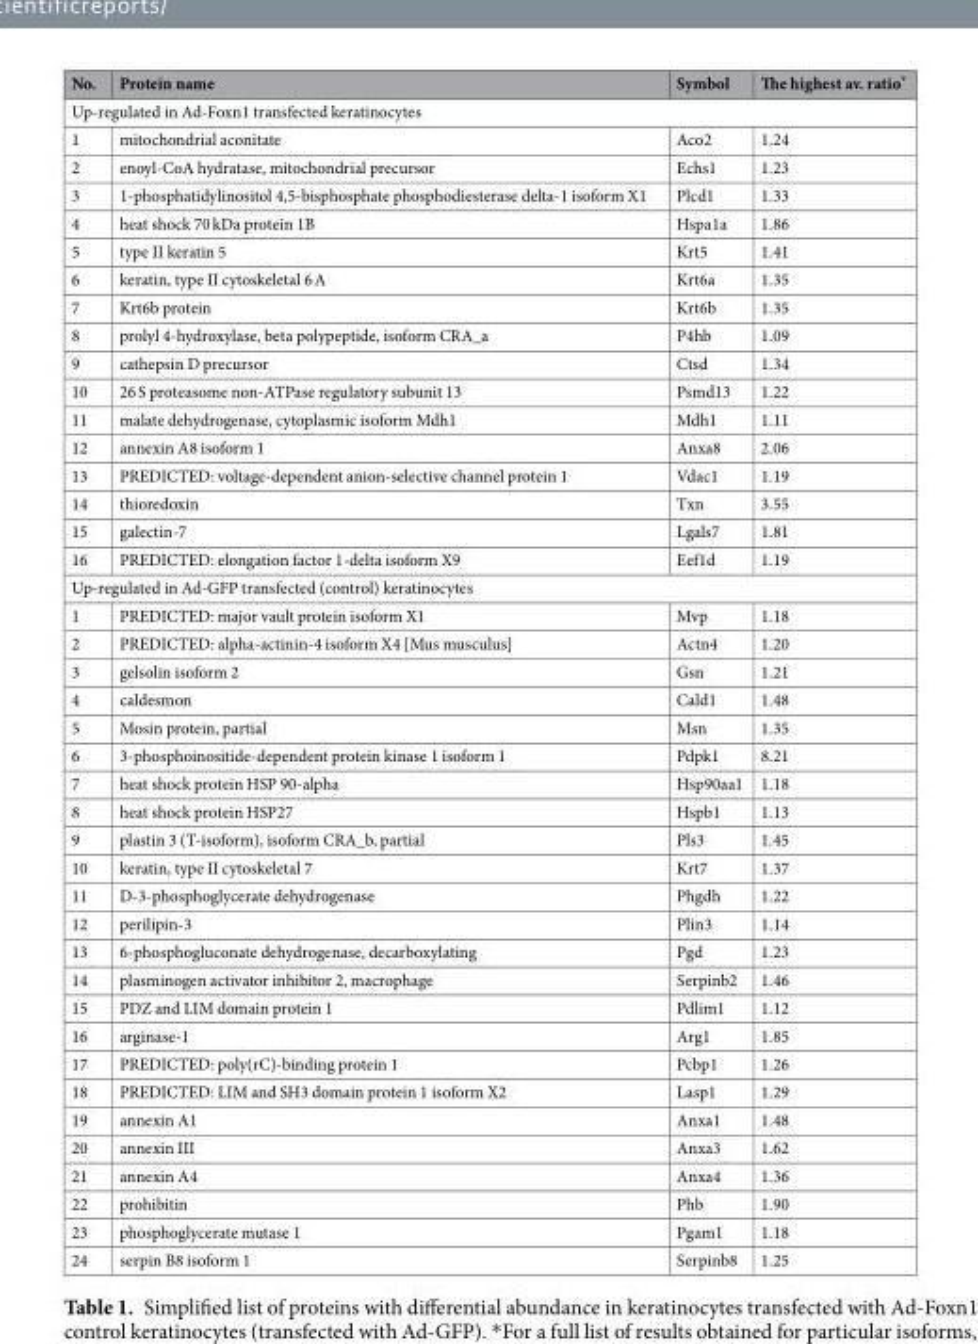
<table><thead><tr><td>No.</td><td>Protein name</td><td>Symbol</td><td>The highest av. ratio*</td></tr></thead><tbody><tr><td colspan="4">Up-regulated in Ad-Foxn1 transfected keratinocytes</td></tr><tr><td>1</td><td>mitochondrial aconitate</td><td>Aco2</td><td>1.24</td></tr><tr><td>2</td><td>enoyl-CoA hydratase, mitochondrial precursor</td><td>Echs1</td><td>1.23</td></tr><tr><td>3</td><td>1-phosphatidylinositol 4,5-bisphosphate phosphodiesterase delta-1 isoform X1</td><td>Plcd1</td><td>1.33</td></tr><tr><td>4</td><td>heat shock 70 kDa protein 1B</td><td>Hspa1a</td><td>1.86</td></tr><tr><td>5</td><td>type II keratin 5</td><td>Krt5</td><td>1.41</td></tr><tr><td>6</td><td>keratin, type II cytoskeletal 6 A</td><td>Krt6a</td><td>1.35</td></tr><tr><td>7</td><td>Krt6b protein</td><td>Krt6b</td><td>1.35</td></tr><tr><td>8</td><td>prolyl 4-hydroxylase, beta polypeptide, isoform CRA_a</td><td>P4hb</td><td>1.09</td></tr><tr><td>9</td><td>cathepsin D precursor</td><td>Ctsd</td><td>1.34</td></tr><tr><td>10</td><td>26 S proteasome non-ATPase regulatory subunit 13</td><td>Psmd13</td><td>1.22</td></tr><tr><td>11</td><td>malate dehydrogenase, cytoplasmic isoform Mdh1</td><td>Mdh1</td><td>1.11</td></tr><tr><td>12</td><td>annexin A8 isoform 1</td><td>Anxa8</td><td>2.06</td></tr><tr><td>13</td><td>PREDICTED: voltage-dependent anion-selective channel protein 1</td><td>Vdac1</td><td>1.19</td></tr><tr><td>14</td><td>thioredoxin</td><td>Txn</td><td>3.55</td></tr><tr><td>15</td><td>galectin-7</td><td>Lgals7</td><td>1.81</td></tr><tr><td>16</td><td>PREDICTED: elongation factor 1-delta isoform X9</td><td>Eef1d</td><td>1.19</td></tr><tr><td colspan="4">Up-regulated in Ad-GFP transfected (control) keratinocytes</td></tr><tr><td>1</td><td>PREDICTED: major vault protein isoform X1</td><td>Mvp</td><td>1.18</td></tr><tr><td>2</td><td>PREDICTED: alpha-actinin-4 isoform X4 [Mus musculus]</td><td>Actn4</td><td>1.20</td></tr><tr><td>3</td><td>gelsolin isoform 2</td><td>Gsn</td><td>1.21</td></tr><tr><td>4</td><td>caldesmon</td><td>Cald1</td><td>1.48</td></tr><tr><td>5</td><td>Mosin protein, partial</td><td>Msn</td><td>1.35</td></tr><tr><td>6</td><td>3-phosphoinositide-dependent protein kinase 1 isoform 1</td><td>Pdpk1</td><td>8.21</td></tr><tr><td>7</td><td>heat shock protein HSP 90-alpha</td><td>Hsp90aa1</td><td>1.18</td></tr><tr><td>8</td><td>heat shock protein HSP27</td><td>Hspb1</td><td>1.13</td></tr><tr><td>9</td><td>plastin 3 (T-isoform), isoform CRA_b, partial</td><td>Pls3</td><td>1.45</td></tr><tr><td>10</td><td>keratin, type II cytoskeletal 7</td><td>Krt7</td><td>1.37</td></tr><tr><td>11</td><td>D-3-phosphoglycerate dehydrogenase</td><td>Phgdh</td><td>1.22</td></tr><tr><td>12</td><td>perilipin-3</td><td>Plin3</td><td>1.14</td></tr><tr><td>13</td><td>6-phosphogluconate dehydrogenase, decarboxylating</td><td>Pgd</td><td>1.23</td></tr><tr><td>14</td><td>plasminogen activator inhibitor 2, macrophage</td><td>Serpinb2</td><td>1.46</td></tr><tr><td>15</td><td>PDZ and LIM domain protein 1</td><td>Pdlim1</td><td>1.12</td></tr><tr><td>16</td><td>arginase-1</td><td>Arg1</td><td>1.85</td></tr><tr><td>17</td><td>PREDICTED: poly(rC)-binding protein 1</td><td>Pcbp1</td><td>1.26</td></tr><tr><td>18</td><td>PREDICTED: LIM and SH3 domain protein 1 isoform X2</td><td>Lasp1</td><td>1.29</td></tr><tr><td>19</td><td>annexin A1</td><td>Anxa1</td><td>1.48</td></tr><tr><td>20</td><td>annexin III</td><td>Anxa3</td><td>1.62</td></tr><tr><td>21</td><td>annexin A4</td><td>Anxa4</td><td>1.36</td></tr><tr><td>22</td><td>prohibitin</td><td>Phb</td><td>1.90</td></tr><tr><td>23</td><td>phosphoglycerate mutase 1</td><td>Pgam1</td><td>1.18</td></tr><tr><td>24</td><td>serpin B8 isoform 1</td><td>Serpinb8</td><td>1.25</td></tr></tbody></table>